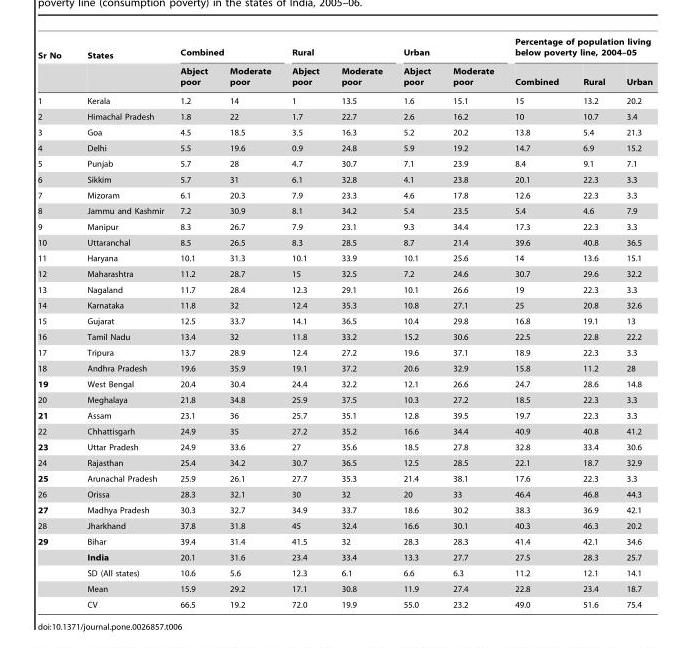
<table><thead><tr><td rowspan="2">Sr No</td><td rowspan="2">States</td><td colspan="2">Combined</td><td colspan="2">Rural</td><td colspan="2">Urban</td><td colspan="3">Percentage of population living below poverty line, 2004–05</td></tr><tr><td>Abject poor</td><td>Moderate poor</td><td>Abject poor</td><td>Moderate poor</td><td>Abject poor</td><td>Moderate poor</td><td>Combined</td><td>Rural</td><td>Urban</td></tr></thead><tbody><tr><td>1</td><td>Kerala</td><td>1.2</td><td>14</td><td>1</td><td>13.5</td><td>1.6</td><td>15.1</td><td>15</td><td>13.2</td><td>20.2</td></tr><tr><td>2</td><td>Himachal Pradesh</td><td>1.8</td><td>22</td><td>1.7</td><td>22.7</td><td>2.6</td><td>16.2</td><td>10</td><td>10.7</td><td>3.4</td></tr><tr><td>3</td><td>Goa</td><td>4.5</td><td>18.5</td><td>3.5</td><td>16.3</td><td>5.2</td><td>20.2</td><td>13.8</td><td>5.4</td><td>21.3</td></tr><tr><td>4</td><td>Delhi</td><td>5.5</td><td>19.6</td><td>0.9</td><td>24.8</td><td>5.9</td><td>19.2</td><td>14.7</td><td>6.9</td><td>15.2</td></tr><tr><td>5</td><td>Punjab</td><td>5.7</td><td>28</td><td>4.7</td><td>30.7</td><td>7.1</td><td>23.9</td><td>8.4</td><td>9.1</td><td>7.1</td></tr><tr><td>6</td><td>Sikkim</td><td>5.7</td><td>31</td><td>6.1</td><td>32.8</td><td>4.1</td><td>23.8</td><td>20.1</td><td>22.3</td><td>3.3</td></tr><tr><td>7</td><td>Mizoram</td><td>6.1</td><td>20.3</td><td>7.9</td><td>23.3</td><td>4.6</td><td>17.8</td><td>12.6</td><td>22.3</td><td>3.3</td></tr><tr><td>8</td><td>Jammu and Kashmir</td><td>7.2</td><td>30.9</td><td>8.1</td><td>34.2</td><td>5.4</td><td>23.5</td><td>5.4</td><td>4.6</td><td>7.9</td></tr><tr><td>9</td><td>Manipur</td><td>8.3</td><td>26.7</td><td>7.9</td><td>23.1</td><td>9.3</td><td>34.4</td><td>17.3</td><td>22.3</td><td>3.3</td></tr><tr><td>10</td><td>Uttaranchal</td><td>8.5</td><td>26.5</td><td>8.3</td><td>28.5</td><td>8.7</td><td>21.4</td><td>39.6</td><td>40.8</td><td>36.5</td></tr><tr><td>11</td><td>Haryana</td><td>10.1</td><td>31.3</td><td>10.1</td><td>33.9</td><td>10.1</td><td>25.6</td><td>14</td><td>13.6</td><td>15.1</td></tr><tr><td>12</td><td>Maharashtra</td><td>11.2</td><td>28.7</td><td>15</td><td>32.5</td><td>7.2</td><td>24.6</td><td>30.7</td><td>29.6</td><td>32.2</td></tr><tr><td>13</td><td>Nagaland</td><td>11.7</td><td>28.4</td><td>12.3</td><td>29.1</td><td>10.1</td><td>26.6</td><td>19</td><td>22.3</td><td>3.3</td></tr><tr><td>14</td><td>Karnataka</td><td>11.8</td><td>32</td><td>12.4</td><td>35.3</td><td>10.8</td><td>27.1</td><td>25</td><td>20.8</td><td>32.6</td></tr><tr><td>15</td><td>Gujarat</td><td>12.5</td><td>33.7</td><td>14.1</td><td>36.5</td><td>10.4</td><td>29.8</td><td>16.8</td><td>19.1</td><td>13</td></tr><tr><td>16</td><td>Tamil Nadu</td><td>13.4</td><td>32</td><td>11.8</td><td>33.2</td><td>15.2</td><td>30.6</td><td>22.5</td><td>22.8</td><td>22.2</td></tr><tr><td>17</td><td>Tripura</td><td>13.7</td><td>28.9</td><td>12.4</td><td>27.2</td><td>19.6</td><td>37.1</td><td>18.9</td><td>22.3</td><td>3.3</td></tr><tr><td>18</td><td>Andhra Pradesh</td><td>19.6</td><td>35.9</td><td>19.1</td><td>37.2</td><td>20.6</td><td>32.9</td><td>15.8</td><td>11.2</td><td>28</td></tr><tr><td>19</td><td>West Bengal</td><td>20.4</td><td>30.4</td><td>24.4</td><td>32.2</td><td>12.1</td><td>26.6</td><td>24.7</td><td>28.6</td><td>14.8</td></tr><tr><td>20</td><td>Meghalaya</td><td>21.8</td><td>34.8</td><td>25.9</td><td>37.5</td><td>10.3</td><td>27.2</td><td>18.5</td><td>22.3</td><td>3.3</td></tr><tr><td>21</td><td>Assam</td><td>23.1</td><td>36</td><td>25.7</td><td>35.1</td><td>12.8</td><td>39.5</td><td>19.7</td><td>22.3</td><td>3.3</td></tr><tr><td>22</td><td>Chhattisgarh</td><td>24.9</td><td>35</td><td>27.2</td><td>35.2</td><td>16.6</td><td>34.4</td><td>40.9</td><td>40.8</td><td>41.2</td></tr><tr><td>23</td><td>Uttar Pradesh</td><td>24.9</td><td>33.6</td><td>27</td><td>35.6</td><td>18.5</td><td>27.8</td><td>32.8</td><td>33.4</td><td>30.6</td></tr><tr><td>24</td><td>Rajasthan</td><td>25.4</td><td>34.2</td><td>30.7</td><td>36.5</td><td>12.5</td><td>28.5</td><td>22.1</td><td>18.7</td><td>32.9</td></tr><tr><td>25</td><td>Arunachal Pradesh</td><td>25.9</td><td>26.1</td><td>27.7</td><td>35.3</td><td>21.4</td><td>38.1</td><td>17.6</td><td>22.3</td><td>3.3</td></tr><tr><td>26</td><td>Orissa</td><td>28.3</td><td>32.1</td><td>30</td><td>32</td><td>20</td><td>33</td><td>46.4</td><td>46.8</td><td>44.3</td></tr><tr><td>27</td><td>Madhya Pradesh</td><td>30.3</td><td>32.7</td><td>34.9</td><td>33.7</td><td>18.6</td><td>30.2</td><td>38.3</td><td>36.9</td><td>42.1</td></tr><tr><td>28</td><td>Jharkhand</td><td>37.8</td><td>31.8</td><td>45</td><td>32.4</td><td>16.6</td><td>30.1</td><td>40.3</td><td>46.3</td><td>20.2</td></tr><tr><td rowspan="5">29</td><td>Bihar</td><td>39.4</td><td>31.4</td><td>41.5</td><td>32</td><td>28.3</td><td>28.3</td><td>41.4</td><td>42.1</td><td>34.6</td></tr><tr><td>India</td><td>20.1</td><td>31.6</td><td>23.4</td><td>33.4</td><td>13.3</td><td>27.7</td><td>27.5</td><td>28.3</td><td>25.7</td></tr><tr><td>SD (All states)</td><td>10.6</td><td>5.6</td><td>12.3</td><td>6.1</td><td>6.6</td><td>6.3</td><td>11.2</td><td>12.1</td><td>14.1</td></tr><tr><td>Mean</td><td>15.9</td><td>29.2</td><td>17.1</td><td>30.8</td><td>11.9</td><td>27.4</td><td>22.8</td><td>23.4</td><td>18.7</td></tr><tr><td>CV</td><td>66.5</td><td>19.2</td><td>72.0</td><td>19.9</td><td>55.0</td><td>23.2</td><td>49.0</td><td>51.6</td><td>75.4</td></tr></tbody></table>